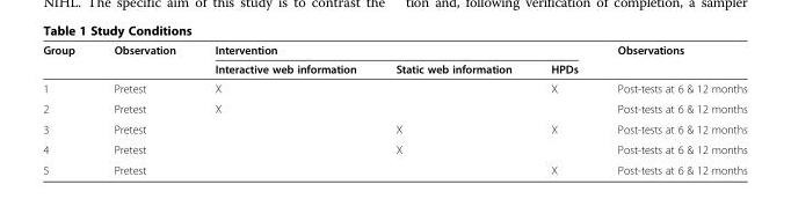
<table><thead><tr><td rowspan="2">Group</td><td rowspan="2">Observation</td><td colspan="3">Intervention</td><td rowspan="2">Observations</td></tr><tr><td>Interactive web information</td><td>Static web information</td><td>HPDs</td></tr></thead><tbody><tr><td>1</td><td>Pretest</td><td>X</td><td></td><td>X</td><td>Post-tests at 6 &amp; 12 months</td></tr><tr><td>2</td><td>Pretest</td><td>X</td><td></td><td></td><td>Post-tests at 6 &amp; 12 months</td></tr><tr><td>3</td><td>Pretest</td><td></td><td>X</td><td>X</td><td>Post-tests at 6 &amp; 12 months</td></tr><tr><td>4</td><td>Pretest</td><td></td><td>X</td><td></td><td>Post-tests at 6 &amp; 12 months</td></tr><tr><td>5</td><td>Pretest</td><td></td><td></td><td>X</td><td>Post-tests at 6 &amp; 12 months</td></tr></tbody></table>